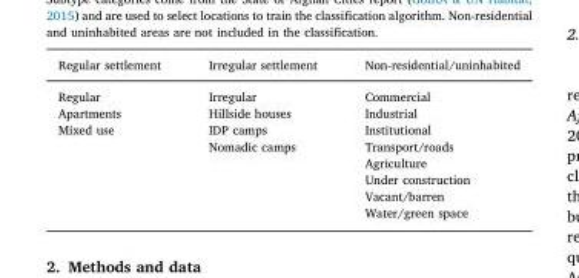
<table><thead><tr><td>Regular settlement</td><td>Irregular settlement</td><td>Non-residential/uninhabited</td></tr></thead><tbody><tr><td>Regular</td><td>Irregular</td><td>Commercial</td></tr><tr><td>Apartments</td><td>Hillside houses</td><td>Industrial</td></tr><tr><td rowspan="6">Mixed use</td><td>IDP camps</td><td>Institutional</td></tr><tr><td rowspan="5">Nomadic camps</td><td>Transport/roads</td></tr><tr><td>Agriculture</td></tr><tr><td>Under construction</td></tr><tr><td>Vacant/barren</td></tr><tr><td>Water/green space</td></tr></tbody></table>